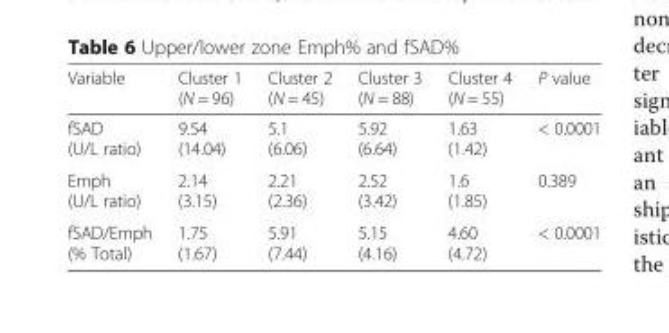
<table><thead><tr><td>Variable</td><td>Cluster 1 (N = 96)</td><td>Cluster 2 (N = 45)</td><td>Cluster 3 (N = 88)</td><td>Cluster 4 (N = 55)</td><td>P value</td></tr></thead><tbody><tr><td>fSAD (U/L ratio)</td><td>9.54 (14.04)</td><td>5.1 (6.06)</td><td>5.92 (6.64)</td><td>1.63 (1.42)</td><td>&lt; 0.0001</td></tr><tr><td>Emph (U/L ratio)</td><td>2.14 (3.15)</td><td>2.21 (2.36)</td><td>2.52 (3.42)</td><td>1.6 (1.85)</td><td>0.389</td></tr><tr><td>fSAD/Emph (% Total)</td><td>1.75 (1.67)</td><td>5.91 (7.44)</td><td>5.15 (4.16)</td><td>4.60 (4.72)</td><td>&lt; 0.0001</td></tr></tbody></table>